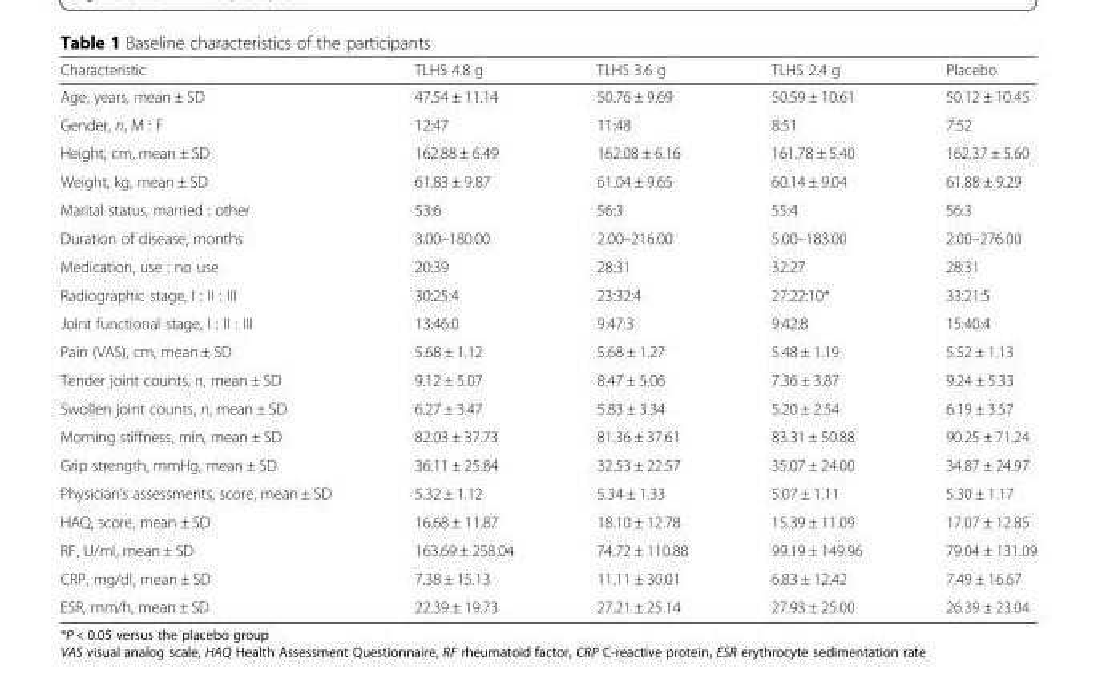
<table><thead><tr><td>Characteristic</td><td>TLHS 4.8 g</td><td>TLHS 3.6 g</td><td>TLHS 2.4 g</td><td>Placebo</td></tr></thead><tbody><tr><td>Age, years, mean ± SD</td><td>47.54 ± 11.14</td><td>50.76 ± 9.69</td><td>50.59 ± 10.61</td><td>50.12 ± 10.45</td></tr><tr><td>Gender, n, M : F</td><td>12:47</td><td>11:48</td><td>8:51</td><td>7:52</td></tr><tr><td>Height, cm, mean ± SD</td><td>162.88 ± 6.49</td><td>162.08 ± 6.16</td><td>161.78 ± 5.40</td><td>162.37 ± 5.60</td></tr><tr><td>Weight, kg, mean ± SD</td><td>61.83 ± 9.87</td><td>61.04 ± 9.65</td><td>60.14 ± 9.04</td><td>61.88 ± 9.29</td></tr><tr><td>Marital status, married : other</td><td>53:6</td><td>56:3</td><td>55:4</td><td>56:3</td></tr><tr><td>Duration of disease, months</td><td>3.00–180.00</td><td>2.00–216.00</td><td>5.00–183.00</td><td>2.00–276.00</td></tr><tr><td>Medication, use : no use</td><td>20:39</td><td>28:31</td><td>32:27</td><td>28:31</td></tr><tr><td>Radiographic stage, I : II : III</td><td>30:25:4</td><td>23:32:4</td><td>27:22:10*</td><td>33:21:5</td></tr><tr><td>Joint functional stage, I : II : III</td><td>13:46:0</td><td>9:47:3</td><td>9:42:8</td><td>15:40:4</td></tr><tr><td>Pain (VAS), cm, mean ± SD</td><td>5.68 ± 1.12</td><td>5.68 ± 1.27</td><td>5.48 ± 1.19</td><td>5.52 ± 1.13</td></tr><tr><td>Tender joint counts, n, mean ± SD</td><td>9.12 ± 5.07</td><td>8.47 ± 5.06</td><td>7.36 ± 3.87</td><td>9.24 ± 5.33</td></tr><tr><td>Swollen joint counts, n, mean ± SD</td><td>6.27 ± 3.47</td><td>5.83 ± 3.34</td><td>5.20 ± 2.54</td><td>6.19 ± 3.57</td></tr><tr><td>Morning stiffness, min, mean ± SD</td><td>82.03 ± 37.73</td><td>81.36 ± 37.61</td><td>83.31 ± 50.88</td><td>90.25 ± 71.24</td></tr><tr><td>Grip strength, mmHg, mean ± SD</td><td>36.11 ± 25.84</td><td>32.53 ± 22.57</td><td>35.07 ± 24.00</td><td>34.87 ± 24.97</td></tr><tr><td>Physician’s assessments, score, mean ± SD</td><td>5.32 ± 1.12</td><td>5.34 ± 1.33</td><td>5.07 ± 1.11</td><td>5.30 ± 1.17</td></tr><tr><td>HAQ, score, mean ± SD</td><td>16.68 ± 11.87</td><td>18.10 ± 12.78</td><td>15.39 ± 11.09</td><td>17.07 ± 12.85</td></tr><tr><td>RF, U/ml, mean ± SD</td><td>163.69 ± 258.04</td><td>74.72 ± 110.88</td><td>99.19 ± 149.96</td><td>79.04 ± 131.09</td></tr><tr><td>CRP, mg/dl, mean ± SD</td><td>7.38 ± 15.13</td><td>11.11 ± 30.01</td><td>6.83 ± 12.42</td><td>7.49 ± 16.67</td></tr><tr><td>ESR, mm/h, mean ± SD</td><td>22.39 ± 19.73</td><td>27.21 ± 25.14</td><td>27.93 ± 25.00</td><td>26.39 ± 23.04</td></tr></tbody></table>